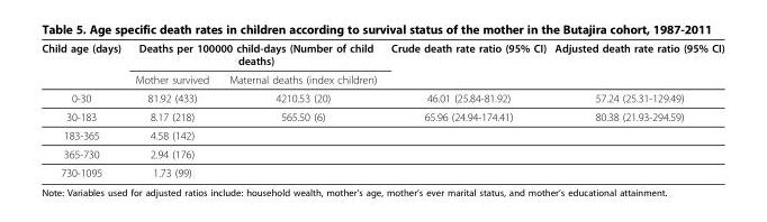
<table><thead><tr><td rowspan="2">Child age (days)</td><td colspan="2">Deaths per 100000 child-days (Number of child deaths)</td><td rowspan="2">Crude death rate ratio (95% CI)</td><td rowspan="2">Adjusted death rate ratio (95% CI)</td></tr><tr><td>Mother survived</td><td>Maternal deaths (index children)</td></tr></thead><tbody><tr><td>0-30</td><td>81.92 (433)</td><td>4210.53 (20)</td><td>46.01 (25.84-81.92)</td><td>57.24 (25.31-129.49)</td></tr><tr><td>30-183</td><td>8.17 (218)</td><td>565.50 (6)</td><td>65.96 (24.94-174.41)</td><td>80.38 (21.93-294.59)</td></tr><tr><td>183-365</td><td>4.58 (142)</td><td></td><td></td><td></td></tr><tr><td>365-730</td><td>2.94 (176)</td><td></td><td></td><td></td></tr><tr><td>730-1095</td><td>1.73 (99)</td><td></td><td></td><td></td></tr></tbody></table>